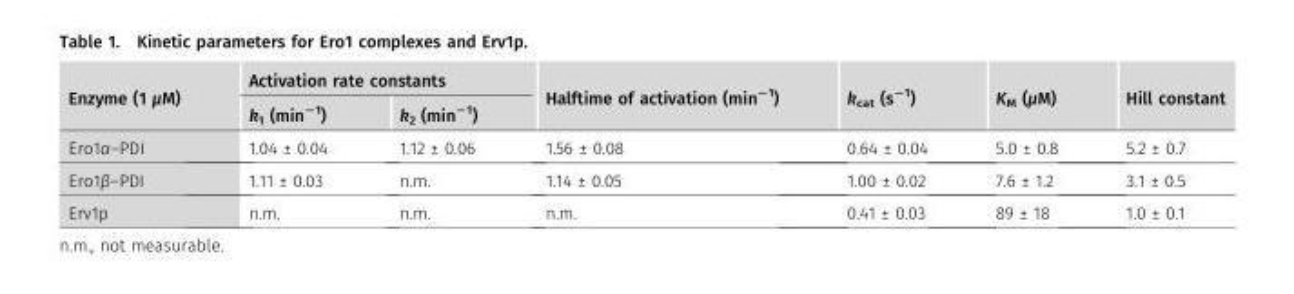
<table><thead><tr><td rowspan="2">Enzyme (1 μM)</td><td colspan="2">Activation rate constants</td><td rowspan="2">Halftime of activation (min<sup>−1</sup>)</td><td rowspan="2">k<sub>cat</sub> (s<sup>−1</sup>)</td><td rowspan="2">K<sub>M</sub> (μM)</td><td rowspan="2">Hill constant</td></tr><tr><td>k<sub>1</sub> (min<sup>−1</sup>)</td><td>k<sub>2</sub> (min<sup>−1</sup>)</td></tr></thead><tbody><tr><td>Ero1α–PDI</td><td>1.04 ± 0.04</td><td>1.12 ± 0.06</td><td>1.56 ± 0.08</td><td>0.64 ± 0.04</td><td>5.0 ± 0.8</td><td>5.2 ± 0.7</td></tr><tr><td>Ero1β–PDI</td><td>1.11 ± 0.03</td><td>n.m.</td><td>1.14 ± 0.05</td><td>1.00 ± 0.02</td><td>7.6 ± 1.2</td><td>3.1 ± 0.5</td></tr><tr><td>Erv1p</td><td>n.m.</td><td>n.m.</td><td>n.m.</td><td>0.41 ± 0.03</td><td>89 ± 18</td><td>1.0 ± 0.1</td></tr></tbody></table>